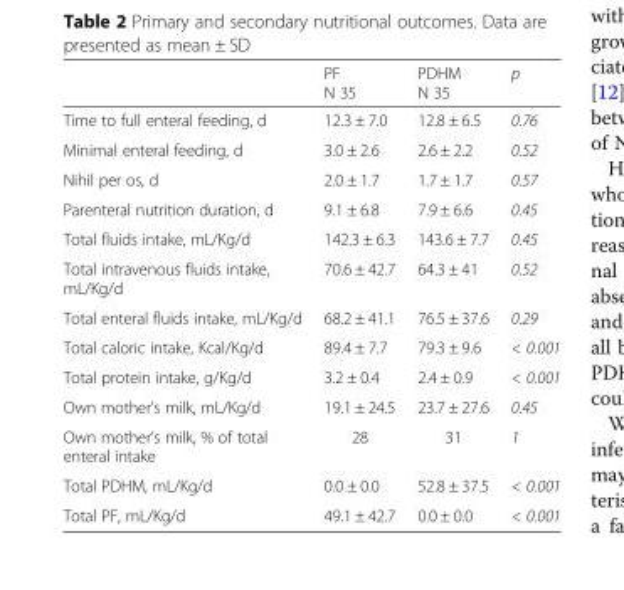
<table><thead><tr><td></td><td>PF N 35</td><td>PDHM N 35</td><td>p</td></tr></thead><tbody><tr><td>Time to full enteral feeding, d</td><td>12.3 ± 7.0</td><td>12.8 ± 6.5</td><td>0.76</td></tr><tr><td>Minimal enteral feeding, d</td><td>3.0 ± 2.6</td><td>2.6 ± 2.2</td><td>0.52</td></tr><tr><td>Nihil per os, d</td><td>2.0 ± 1.7</td><td>1.7 ± 1.7</td><td>0.57</td></tr><tr><td>Parenteral nutrition duration, d</td><td>9.1 ± 6.8</td><td>7.9 ± 6.6</td><td>0.45</td></tr><tr><td>Total fluids intake, mL/Kg/d</td><td>142.3 ± 6.3</td><td>143.6 ± 7.7</td><td>0.45</td></tr><tr><td>Total intravenous fluids intake, mL/Kg/d</td><td>70.6 ± 42.7</td><td>64.3 ± 41</td><td>0.52</td></tr><tr><td>Total enteral fluids intake, mL/Kg/d</td><td>68.2 ± 41.1</td><td>76.5 ± 37.6</td><td>0.29</td></tr><tr><td>Total caloric intake, Kcal/Kg/d</td><td>89.4 ± 7.7</td><td>79.3 ± 9.6</td><td>&lt; 0.001</td></tr><tr><td>Total protein intake, g/Kg/d</td><td>3.2 ± 0.4</td><td>2.4 ± 0.9</td><td>&lt; 0.001</td></tr><tr><td>Own mother’s milk, mL/Kg/d</td><td>19.1 ± 24.5</td><td>23.7 ± 27.6</td><td>0.45</td></tr><tr><td>Own mother’s milk, % of total enteral intake</td><td>28</td><td>31</td><td>1</td></tr><tr><td>Total PDHM, mL/Kg/d</td><td>0.0 ± 0.0</td><td>52.8 ± 37.5</td><td>&lt; 0.001</td></tr><tr><td>Total PF, mL/Kg/d</td><td>49.1 ± 42.7</td><td>0.0 ± 0.0</td><td>&lt; 0.001</td></tr></tbody></table>